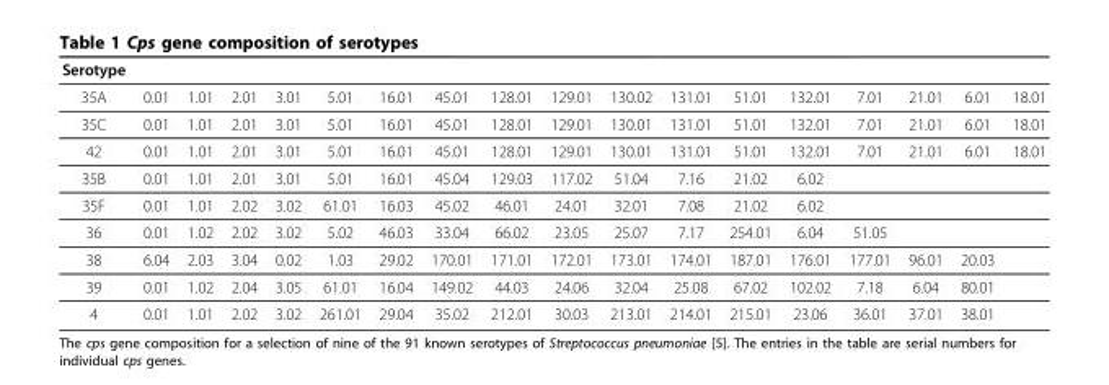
<table><thead><tr><td>Serotype</td><td></td><td></td><td></td><td></td><td></td><td></td><td></td><td></td><td></td><td></td><td></td><td></td><td></td><td></td><td></td><td></td><td></td></tr></thead><tbody><tr><td>35A</td><td>0.01</td><td>1.01</td><td>2.01</td><td>3.01</td><td>5.01</td><td>16.01</td><td>45.01</td><td>128.01</td><td>129.01</td><td>130.02</td><td>131.01</td><td>51.01</td><td>132.01</td><td>7.01</td><td>21.01</td><td>6.01</td><td>18.01</td></tr><tr><td>35C</td><td>0.01</td><td>1.01</td><td>2.01</td><td>3.01</td><td>5.01</td><td>16.01</td><td>45.01</td><td>128.01</td><td>129.01</td><td>130.01</td><td>131.01</td><td>51.01</td><td>132.01</td><td>7.01</td><td>21.01</td><td>6.01</td><td>18.01</td></tr><tr><td>42</td><td>0.01</td><td>1.01</td><td>2.01</td><td>3.01</td><td>5.01</td><td>16.01</td><td>45.01</td><td>128.01</td><td>129.01</td><td>130.01</td><td>131.01</td><td>51.01</td><td>132.01</td><td>7.01</td><td>21.01</td><td>6.01</td><td>18.01</td></tr><tr><td>35B</td><td>0.01</td><td>1.01</td><td>2.01</td><td>3.01</td><td>5.01</td><td>16.01</td><td>45.04</td><td>129.03</td><td>117.02</td><td>51.04</td><td>7.16</td><td>21.02</td><td>6.02</td><td></td><td></td><td></td><td></td></tr><tr><td>35F</td><td>0.01</td><td>1.01</td><td>2.02</td><td>3.02</td><td>61.01</td><td>16.03</td><td>45.02</td><td>46.01</td><td>24.01</td><td>32.01</td><td>7.08</td><td>21.02</td><td>6.02</td><td></td><td></td><td></td><td></td></tr><tr><td>36</td><td>0.01</td><td>1.02</td><td>2.02</td><td>3.02</td><td>5.02</td><td>46.03</td><td>33.04</td><td>66.02</td><td>23.05</td><td>25.07</td><td>7.17</td><td>254.01</td><td>6.04</td><td>51.05</td><td></td><td></td><td></td></tr><tr><td>38</td><td>6.04</td><td>2.03</td><td>3.04</td><td>0.02</td><td>1.03</td><td>29.02</td><td>170.01</td><td>171.01</td><td>172.01</td><td>173.01</td><td>174.01</td><td>187.01</td><td>176.01</td><td>177.01</td><td>96.01</td><td>20.03</td><td></td></tr><tr><td>39</td><td>0.01</td><td>1.02</td><td>2.04</td><td>3.05</td><td>61.01</td><td>16.04</td><td>149.02</td><td>44.03</td><td>24.06</td><td>32.04</td><td>25.08</td><td>67.02</td><td>102.02</td><td>7.18</td><td>6.04</td><td>80.01</td><td></td></tr><tr><td>4</td><td>0.01</td><td>1.01</td><td>2.02</td><td>3.02</td><td>261.01</td><td>29.04</td><td>35.02</td><td>212.01</td><td>30.03</td><td>213.01</td><td>214.01</td><td>215.01</td><td>23.06</td><td>36.01</td><td>37.01</td><td>38.01</td><td></td></tr></tbody></table>